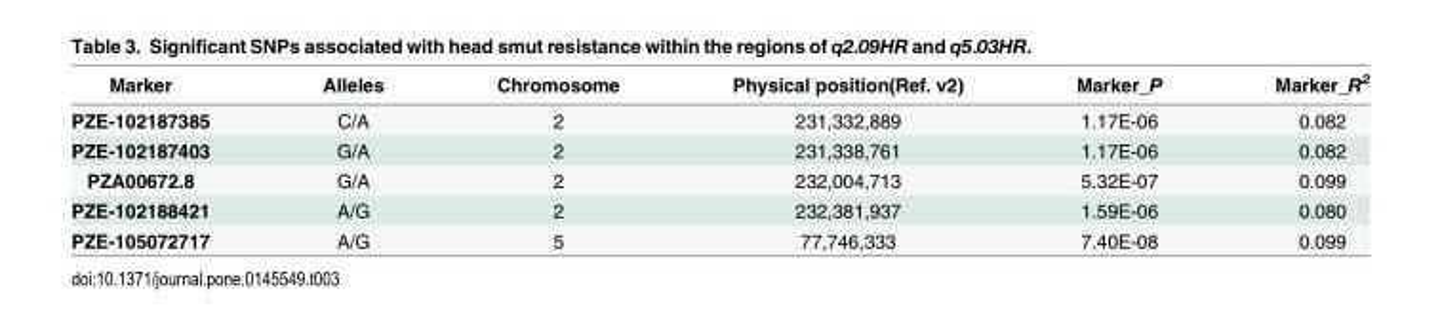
<table><thead><tr><td>Marker</td><td>Alleles</td><td>Chromosome</td><td>Physical position(Ref. v2)</td><td>Marker_P</td><td>Marker_R<sup>2</sup></td></tr></thead><tbody><tr><td>PZE-102187385</td><td>C/A</td><td>2</td><td>231,332,889</td><td>1.17E-06</td><td>0.082</td></tr><tr><td>PZE-102187403</td><td>G/A</td><td>2</td><td>231,338,761</td><td>1.17E-06</td><td>0.082</td></tr><tr><td>PZA00672.8</td><td>G/A</td><td>2</td><td>232,004,713</td><td>5.32E-07</td><td>0.099</td></tr><tr><td>PZE-102188421</td><td>A/G</td><td>2</td><td>232,381,937</td><td>1.59E-06</td><td>0.080</td></tr><tr><td>PZE-105072717</td><td>A/G</td><td>5</td><td>77,746,333</td><td>7.40E-08</td><td>0.099</td></tr></tbody></table>